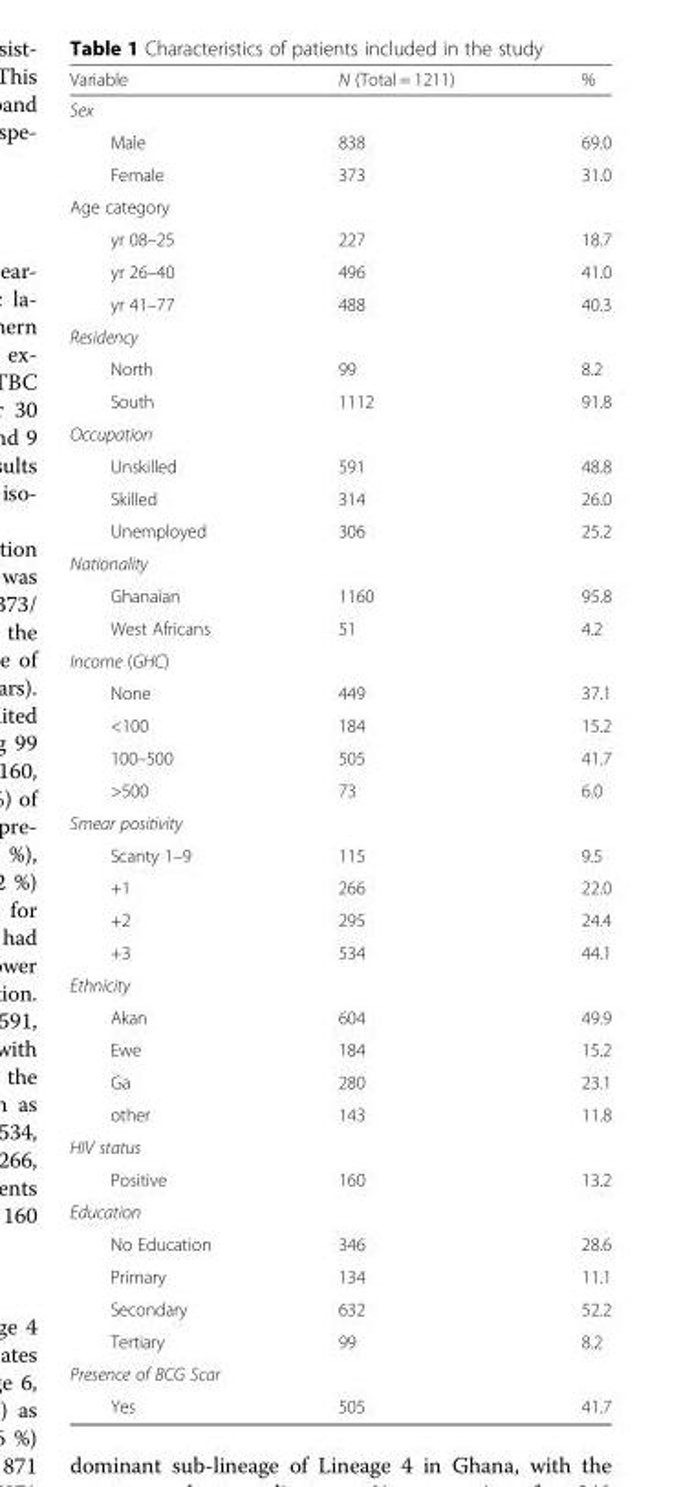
<table><thead><tr><td>Variable</td><td>N (Total = 1211)</td><td>%</td></tr></thead><tbody><tr><td colspan="3">Sex</td></tr><tr><td>Male</td><td>838</td><td>69.0</td></tr><tr><td>Female</td><td>373</td><td>31.0</td></tr><tr><td colspan="3">Age category</td></tr><tr><td>yr 08–25</td><td>227</td><td>18.7</td></tr><tr><td>yr 26–40</td><td>496</td><td>41.0</td></tr><tr><td>yr 41–77</td><td>488</td><td>40.3</td></tr><tr><td colspan="3">Residency</td></tr><tr><td>North</td><td>99</td><td>8.2</td></tr><tr><td>South</td><td>1112</td><td>91.8</td></tr><tr><td colspan="3">Occupation</td></tr><tr><td>Unskilled</td><td>591</td><td>48.8</td></tr><tr><td>Skilled</td><td>314</td><td>26.0</td></tr><tr><td>Unemployed</td><td>306</td><td>25.2</td></tr><tr><td colspan="3">Nationality</td></tr><tr><td>Ghanaian</td><td>1160</td><td>95.8</td></tr><tr><td>West Africans</td><td>51</td><td>4.2</td></tr><tr><td colspan="3">Income (GHC)</td></tr><tr><td>None</td><td>449</td><td>37.1</td></tr><tr><td>&lt;100</td><td>184</td><td>15.2</td></tr><tr><td>100–500</td><td>505</td><td>41.7</td></tr><tr><td>&gt;500</td><td>73</td><td>6.0</td></tr><tr><td colspan="3">Smear positivity</td></tr><tr><td>Scanty 1–9</td><td>115</td><td>9.5</td></tr><tr><td>+1</td><td>266</td><td>22.0</td></tr><tr><td>+2</td><td>295</td><td>24.4</td></tr><tr><td>+3</td><td>534</td><td>44.1</td></tr><tr><td colspan="3">Ethnicity</td></tr><tr><td>Akan</td><td>604</td><td>49.9</td></tr><tr><td>Ewe</td><td>184</td><td>15.2</td></tr><tr><td>Ga</td><td>280</td><td>23.1</td></tr><tr><td>other</td><td>143</td><td>11.8</td></tr><tr><td colspan="3">HIV status</td></tr><tr><td>Positive</td><td>160</td><td>13.2</td></tr><tr><td colspan="3">Education</td></tr><tr><td>No Education</td><td>346</td><td>28.6</td></tr><tr><td>Primary</td><td>134</td><td>11.1</td></tr><tr><td>Secondary</td><td>632</td><td>52.2</td></tr><tr><td>Tertiary</td><td>99</td><td>8.2</td></tr><tr><td colspan="3">Presence of BCG Scar</td></tr><tr><td>Yes</td><td>505</td><td>41.7</td></tr></tbody></table>